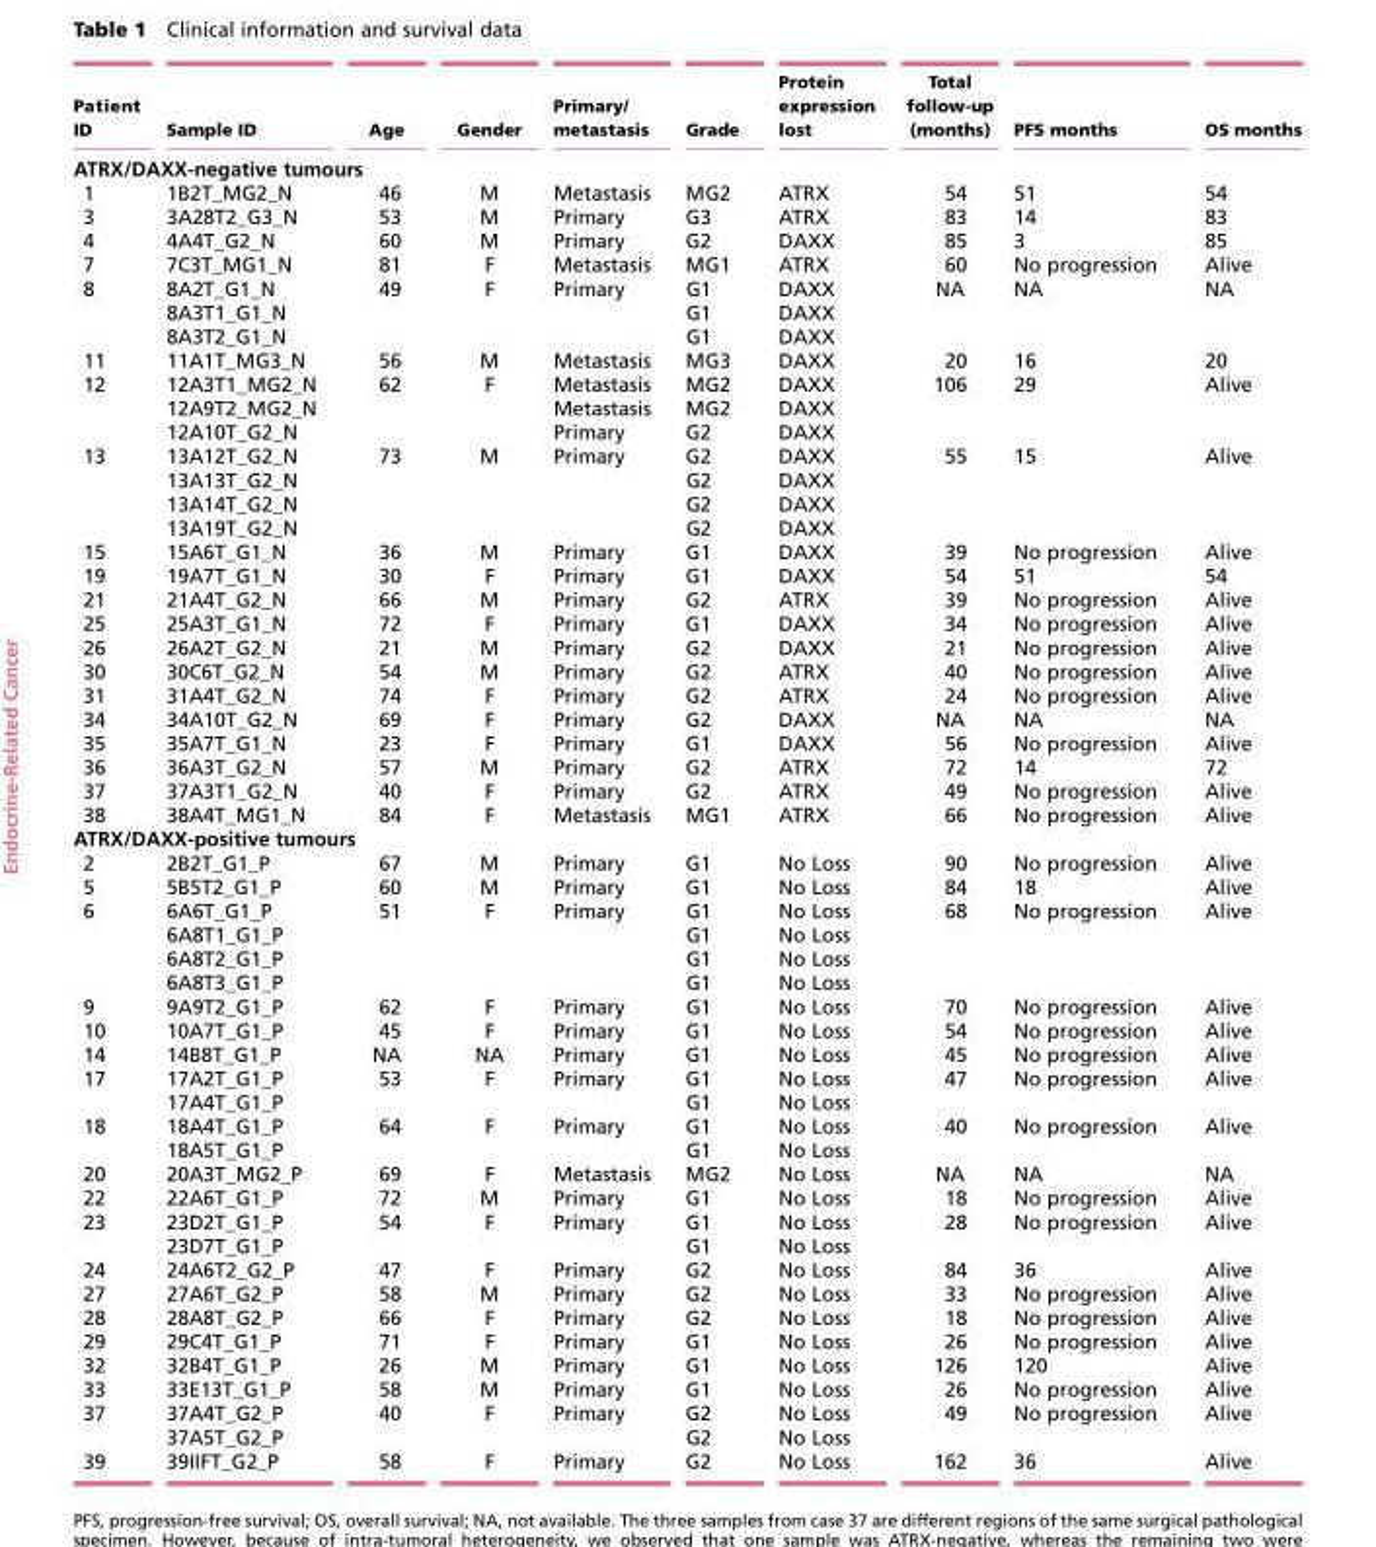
<table><thead><tr><td>Patient ID</td><td>Sample ID</td><td>Age</td><td>Gender</td><td>Primary/ metastasis</td><td>Grade</td><td>Protein expression lost</td><td>Total follow-up (months)</td><td>PFS months</td><td>OS months</td></tr></thead><tbody><tr><td colspan="10">ATRX/DAXX-negative tumours</td></tr><tr><td>1</td><td>1B2T_MG2_N</td><td>46</td><td>M</td><td>Metastasis</td><td>MG2</td><td>ATRX</td><td>54</td><td>51</td><td>54</td></tr><tr><td>3</td><td>3A28T2_G3_N</td><td>53</td><td>M</td><td>Primary</td><td>G3</td><td>ATRX</td><td>83</td><td>14</td><td>83</td></tr><tr><td>4</td><td>4A4T_G2_N</td><td>60</td><td>M</td><td>Primary</td><td>G2</td><td>DAXX</td><td>85</td><td>3</td><td>85</td></tr><tr><td>7</td><td>7C3T_MG1_N</td><td>81</td><td>F</td><td>Metastasis</td><td>MG1</td><td>ATRX</td><td>60</td><td>No progression</td><td>Alive</td></tr><tr><td rowspan="3">8</td><td>8A2T_G1_N</td><td>49</td><td>F</td><td>Primary</td><td>G1</td><td>DAXX</td><td>NA</td><td>NA</td><td>NA</td></tr><tr><td>8A3T1_G1_N</td><td></td><td></td><td></td><td>G1</td><td>DAXX</td><td></td><td></td><td></td></tr><tr><td>8A3T2_G1_N</td><td></td><td></td><td></td><td>G1</td><td>DAXX</td><td></td><td></td><td></td></tr><tr><td>11</td><td>11A1T_MG3_N</td><td>56</td><td>M</td><td>Metastasis</td><td>MG3</td><td>DAXX</td><td>20</td><td>16</td><td>20</td></tr><tr><td rowspan="3">12</td><td>12A3T1_MG2_N</td><td>62</td><td>F</td><td>Metastasis</td><td>MG2</td><td>DAXX</td><td>106</td><td>29</td><td>Alive</td></tr><tr><td>12A9T2_MG2_N</td><td></td><td></td><td>Metastasis</td><td>MG2</td><td>DAXX</td><td></td><td></td><td></td></tr><tr><td>12A10T_G2_N</td><td></td><td></td><td>Primary</td><td>G2</td><td>DAXX</td><td></td><td></td><td></td></tr><tr><td rowspan="4">13</td><td>13A12T_G2_N</td><td>73</td><td>M</td><td>Primary</td><td>G2</td><td>DAXX</td><td>55</td><td>15</td><td>Alive</td></tr><tr><td>13A13T_G2_N</td><td></td><td></td><td></td><td>G2</td><td>DAXX</td><td></td><td></td><td></td></tr><tr><td>13A14T_G2_N</td><td></td><td></td><td></td><td>G2</td><td>DAXX</td><td></td><td></td><td></td></tr><tr><td>13A19T_G2_N</td><td></td><td></td><td></td><td>G2</td><td>DAXX</td><td></td><td></td><td></td></tr><tr><td>15</td><td>15A6T_G1_N</td><td>36</td><td>M</td><td>Primary</td><td>G1</td><td>DAXX</td><td>39</td><td>No progression</td><td>Alive</td></tr><tr><td>19</td><td>19A7T_G1_N</td><td>30</td><td>F</td><td>Primary</td><td>G1</td><td>DAXX</td><td>54</td><td>51</td><td>54</td></tr><tr><td>21</td><td>21A4T_G2_N</td><td>66</td><td>M</td><td>Primary</td><td>G2</td><td>ATRX</td><td>39</td><td>No progression</td><td>Alive</td></tr><tr><td>25</td><td>25A3T_G1_N</td><td>72</td><td>F</td><td>Primary</td><td>G1</td><td>DAXX</td><td>34</td><td>No progression</td><td>Alive</td></tr><tr><td>26</td><td>26A2T_G2_N</td><td>21</td><td>M</td><td>Primary</td><td>G2</td><td>DAXX</td><td>21</td><td>No progression</td><td>Alive</td></tr><tr><td>30</td><td>30C6T_G2_N</td><td>54</td><td>M</td><td>Primary</td><td>G2</td><td>ATRX</td><td>40</td><td>No progression</td><td>Alive</td></tr><tr><td>31</td><td>31A4T_G2_N</td><td>74</td><td>F</td><td>Primary</td><td>G2</td><td>ATRX</td><td>24</td><td>No progression</td><td>Alive</td></tr><tr><td>34</td><td>34A10T_G2_N</td><td>69</td><td>F</td><td>Primary</td><td>G2</td><td>DAXX</td><td>NA</td><td>NA</td><td>NA</td></tr><tr><td>35</td><td>35A7T_G1_N</td><td>23</td><td>F</td><td>Primary</td><td>G1</td><td>DAXX</td><td>56</td><td>No progression</td><td>Alive</td></tr><tr><td>36</td><td>36A3T_G2_N</td><td>57</td><td>M</td><td>Primary</td><td>G2</td><td>ATRX</td><td>72</td><td>14</td><td>72</td></tr><tr><td>37</td><td>37A3T1_G2_N</td><td>40</td><td>F</td><td>Primary</td><td>G2</td><td>ATRX</td><td>49</td><td>No progression</td><td>Alive</td></tr><tr><td>38</td><td>38A4T_MG1_N</td><td>84</td><td>F</td><td>Metastasis</td><td>MG1</td><td>ATRX</td><td>66</td><td>No progression</td><td>Alive</td></tr><tr><td colspan="10">ATRX/DAXX-positive tumours</td></tr><tr><td>2</td><td>2B2T_G1_P</td><td>67</td><td>M</td><td>Primary</td><td>G1</td><td>No Loss</td><td>90</td><td>No progression</td><td>Alive</td></tr><tr><td>5</td><td>5B5T2_G1_P</td><td>60</td><td>M</td><td>Primary</td><td>G1</td><td>No Loss</td><td>84</td><td>18</td><td>Alive</td></tr><tr><td rowspan="4">6</td><td>6A6T_G1_P</td><td>51</td><td>F</td><td>Primary</td><td>G1</td><td>No Loss</td><td>68</td><td>No progression</td><td>Alive</td></tr><tr><td>6A8T1_G1_P</td><td></td><td></td><td></td><td>G1</td><td>No Loss</td><td></td><td></td><td></td></tr><tr><td>6A8T2_G1_P</td><td></td><td></td><td></td><td>G1</td><td>No Loss</td><td></td><td></td><td></td></tr><tr><td>6A8T3_G1_P</td><td></td><td></td><td></td><td>G1</td><td>No Loss</td><td></td><td></td><td></td></tr><tr><td>9</td><td>9A9T2_G1_P</td><td>62</td><td>F</td><td>Primary</td><td>G1</td><td>No Loss</td><td>70</td><td>No progression</td><td>Alive</td></tr><tr><td>10</td><td>10A7T_G1_P</td><td>45</td><td>F</td><td>Primary</td><td>G1</td><td>No Loss</td><td>54</td><td>No progression</td><td>Alive</td></tr><tr><td>14</td><td>14B8T_G1_P</td><td>NA</td><td>NA</td><td>Primary</td><td>G1</td><td>No Loss</td><td>45</td><td>No progression</td><td>Alive</td></tr><tr><td rowspan="2">17</td><td>17A2T_G1_P</td><td>53</td><td>F</td><td>Primary</td><td>G1</td><td>No Loss</td><td>47</td><td>No progression</td><td>Alive</td></tr><tr><td>17A4T_G1_P</td><td></td><td></td><td></td><td>G1</td><td>No Loss</td><td></td><td></td><td></td></tr><tr><td rowspan="2">18</td><td>18A4T_G1_P</td><td>64</td><td>F</td><td>Primary</td><td>G1</td><td>No Loss</td><td>40</td><td>No progression</td><td>Alive</td></tr><tr><td>18A5T_G1_P</td><td></td><td></td><td></td><td>G1</td><td>No Loss</td><td></td><td></td><td></td></tr><tr><td>20</td><td>20A3T_MG2_P</td><td>69</td><td>F</td><td>Metastasis</td><td>MG2</td><td>No Loss</td><td>NA</td><td>NA</td><td>NA</td></tr><tr><td>22</td><td>22A6T_G1_P</td><td>72</td><td>M</td><td>Primary</td><td>G1</td><td>No Loss</td><td>18</td><td>No progression</td><td>Alive</td></tr><tr><td rowspan="2">23</td><td>23D2T_G1_P</td><td>54</td><td>F</td><td>Primary</td><td>G1</td><td>No Loss</td><td>28</td><td>No progression</td><td>Alive</td></tr><tr><td>23D7T_G1_P</td><td></td><td></td><td></td><td>G1</td><td>No Loss</td><td></td><td></td><td></td></tr><tr><td>24</td><td>24A6T2_G2_P</td><td>47</td><td>F</td><td>Primary</td><td>G2</td><td>No Loss</td><td>84</td><td>36</td><td>Alive</td></tr><tr><td>27</td><td>27A6T_G2_P</td><td>58</td><td>M</td><td>Primary</td><td>G2</td><td>No Loss</td><td>33</td><td>No progression</td><td>Alive</td></tr><tr><td>28</td><td>28A8T_G2_P</td><td>66</td><td>F</td><td>Primary</td><td>G2</td><td>No Loss</td><td>18</td><td>No progression</td><td>Alive</td></tr><tr><td>29</td><td>29C4T_G1_P</td><td>71</td><td>F</td><td>Primary</td><td>G1</td><td>No Loss</td><td>26</td><td>No progression</td><td>Alive</td></tr><tr><td>32</td><td>32B4T_G1_P</td><td>26</td><td>M</td><td>Primary</td><td>G1</td><td>No Loss</td><td>126</td><td>120</td><td>Alive</td></tr><tr><td>33</td><td>33E13T_G1_P</td><td>58</td><td>M</td><td>Primary</td><td>G1</td><td>No Loss</td><td>26</td><td>No progression</td><td>Alive</td></tr><tr><td rowspan="2">37</td><td>37A4T_G2_P</td><td>40</td><td>F</td><td>Primary</td><td>G2</td><td>No Loss</td><td>49</td><td>No progression</td><td>Alive</td></tr><tr><td>37A5T_G2_P</td><td></td><td></td><td></td><td>G2</td><td>No Loss</td><td></td><td></td><td></td></tr><tr><td>39</td><td>39IIFT_G2_P</td><td>58</td><td>F</td><td>Primary</td><td>G2</td><td>No Loss</td><td>162</td><td>36</td><td>Alive</td></tr></tbody></table>